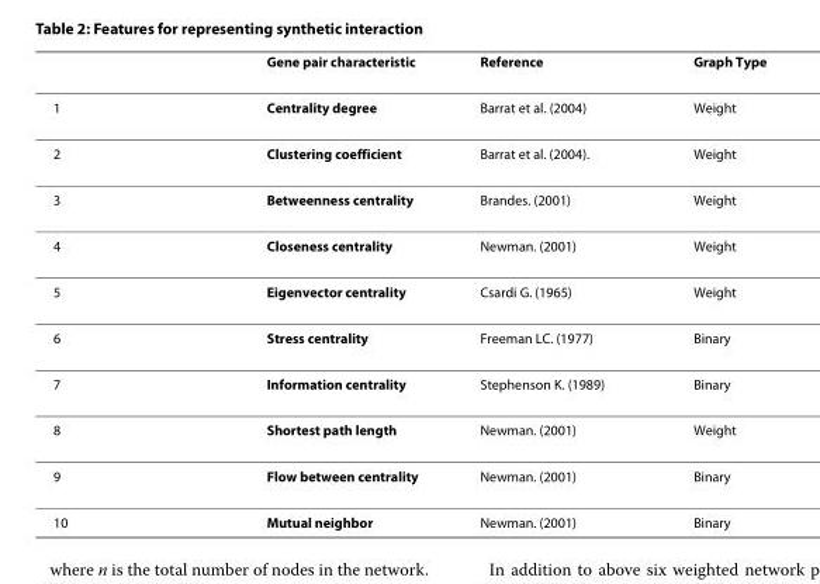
<table><thead><tr><td></td><td>Gene pair characteristic</td><td>Reference</td><td>Graph Type</td></tr></thead><tbody><tr><td>1</td><td>Centrality degree</td><td>Barrat et al. (2004)</td><td>Weight</td></tr><tr><td>2</td><td>Clustering coefficient</td><td>Barrat et al. (2004).</td><td>Weight</td></tr><tr><td>3</td><td>Betweenness centrality</td><td>Brandes. (2001)</td><td>Weight</td></tr><tr><td>4</td><td>Closeness centrality</td><td>Newman. (2001)</td><td>Weight</td></tr><tr><td>5</td><td>Eigenvector centrality</td><td>Csardi G. (1965)</td><td>Weight</td></tr><tr><td>6</td><td>Stress centrality</td><td>Freeman LC. (1977)</td><td>Binary</td></tr><tr><td>7</td><td>Information centrality</td><td>Stephenson K. (1989)</td><td>Binary</td></tr><tr><td>8</td><td>Shortest path length</td><td>Newman. (2001)</td><td>Weight</td></tr><tr><td>9</td><td>Flow between centrality</td><td>Newman. (2001)</td><td>Binary</td></tr><tr><td>10</td><td>Mutual neighbor</td><td>Newman. (2001)</td><td>Binary</td></tr></tbody></table>